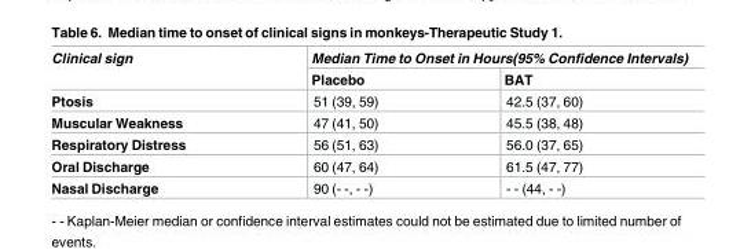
<table><thead><tr><td rowspan="2">Clinical sign</td><td colspan="2">Median Time to Onset in Hours(95% Confidence Intervals)</td></tr><tr><td>Placebo</td><td>BAT</td></tr></thead><tbody><tr><td>Ptosis</td><td>51 (39, 59)</td><td>42.5 (37, 60)</td></tr><tr><td>Muscular Weakness</td><td>47 (41, 50)</td><td>45.5 (38, 48)</td></tr><tr><td>Respiratory Distress</td><td>56 (51, 63)</td><td>56.0 (37, 65)</td></tr><tr><td>Oral Discharge</td><td>60 (47, 64)</td><td>61.5 (47, 77)</td></tr><tr><td>Nasal Discharge</td><td>90 (- -, - -)</td><td>- - (44, - -)</td></tr></tbody></table>